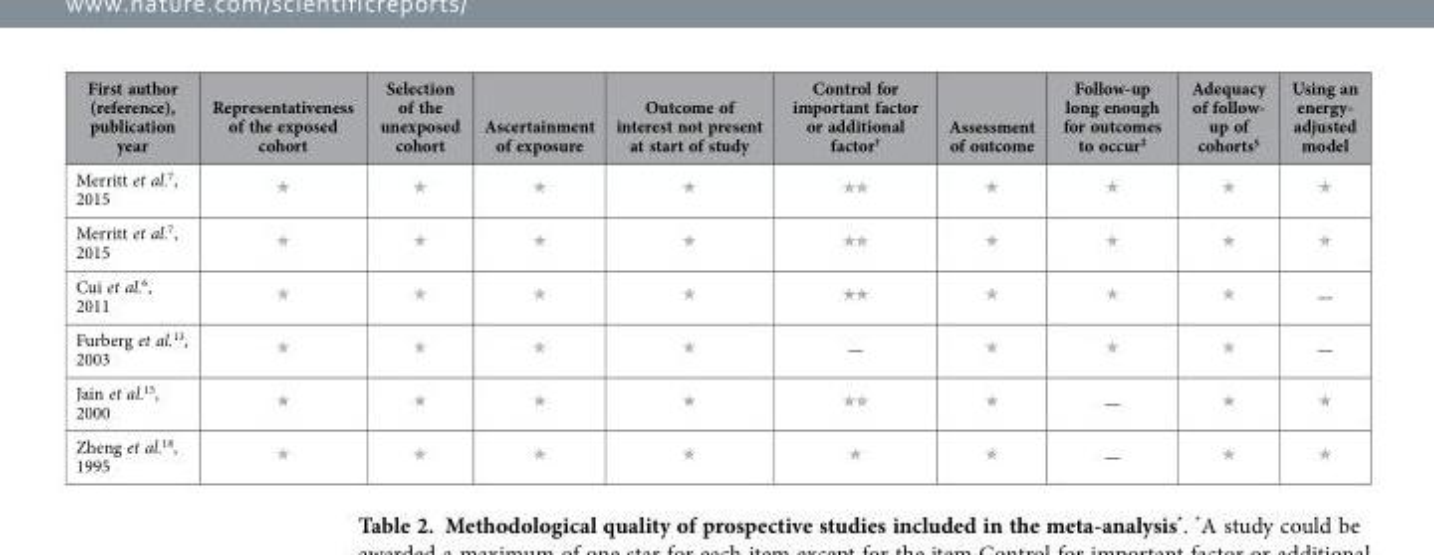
<table><thead><tr><td>First author (reference), publication year</td><td>Representativeness of the exposed cohort</td><td>Selection of the unexposed cohort</td><td>Ascertainment of exposure</td><td>Outcome of interest not present at start of study</td><td>Control for important factor or additional factor†</td><td>Assessment of outcome</td><td>Follow-up long enough for outcomes to occur‡</td><td>Adequacy of follow- up of cohorts§</td><td>Using an energy- adjusted model</td></tr></thead><tbody><tr><td colspan="10">Merritt et al.<sup>7</sup>, 2015</td></tr><tr><td colspan="10">Merritt et al.<sup>7</sup>, 2015</td></tr><tr><td>Cui et al.<sup>6</sup>, 2011</td><td></td><td></td><td></td><td></td><td></td><td></td><td></td><td></td><td>—</td></tr><tr><td>Furberg et al.<sup>13</sup>, 2003</td><td></td><td></td><td></td><td></td><td>—</td><td></td><td></td><td></td><td>—</td></tr><tr><td>Jain et al.<sup>15</sup>, 2000</td><td></td><td></td><td></td><td></td><td></td><td></td><td>—</td><td></td><td></td></tr><tr><td>Zheng et al.<sup>18</sup>, 1995</td><td></td><td></td><td></td><td></td><td></td><td></td><td>—</td><td></td><td></td></tr></tbody></table>